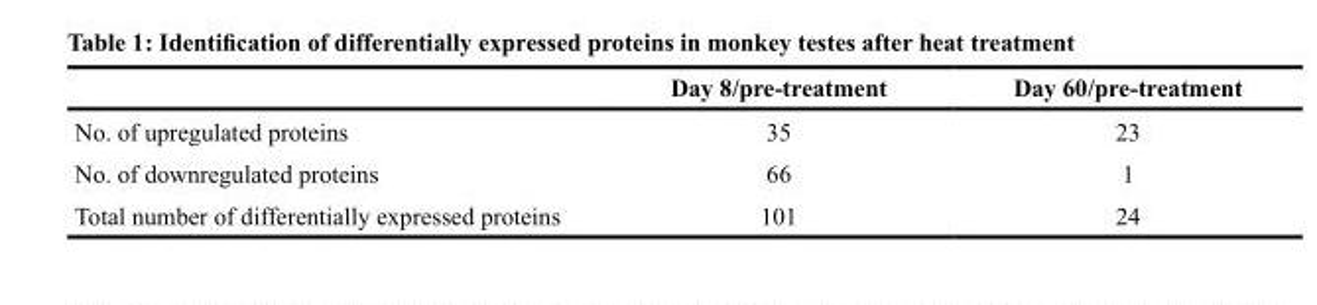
<table><thead><tr><td></td><td>Day 8/pre-treatment</td><td>Day 60/pre-treatment</td></tr></thead><tbody><tr><td>No. of upregulated proteins</td><td>35</td><td>23</td></tr><tr><td>No. of downregulated proteins</td><td>66</td><td>1</td></tr><tr><td>Total number of differentially expressed proteins</td><td>101</td><td>24</td></tr></tbody></table>